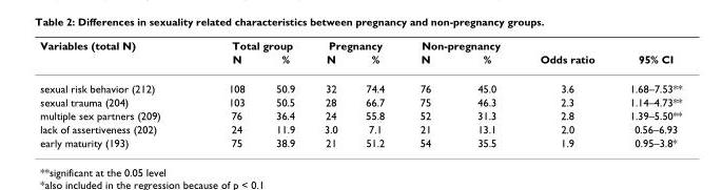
<table><thead><tr><td rowspan="2">Variables (total N)</td><td colspan="2">Total group</td><td colspan="2">Pregnancy</td><td colspan="2">Non-pregnancy</td><td rowspan="2">Odds ratio</td><td rowspan="2">95% CI</td></tr><tr><td>N</td><td>%</td><td>N</td><td>%</td><td>N</td><td>%</td></tr></thead><tbody><tr><td>sexual risk behavior (212)</td><td>108</td><td>50.9</td><td>32</td><td>74.4</td><td>76</td><td>45.0</td><td>3.6</td><td>1.68–7.53**</td></tr><tr><td>sexual trauma (204)</td><td>103</td><td>50.5</td><td>28</td><td>66.7</td><td>75</td><td>46.3</td><td>2.3</td><td>1.14–4.73**</td></tr><tr><td>multiple sex partners (209)</td><td>76</td><td>36.4</td><td>24</td><td>55.8</td><td>52</td><td>31.3</td><td>2.8</td><td>1.39–5.50**</td></tr><tr><td>lack of assertiveness (202)</td><td>24</td><td>11.9</td><td>3.0</td><td>7.1</td><td>21</td><td>13.1</td><td>2.0</td><td>0.56–6.93</td></tr><tr><td>early maturity (193)</td><td>75</td><td>38.9</td><td>21</td><td>51.2</td><td>54</td><td>35.5</td><td>1.9</td><td>0.95–3.8*</td></tr></tbody></table>